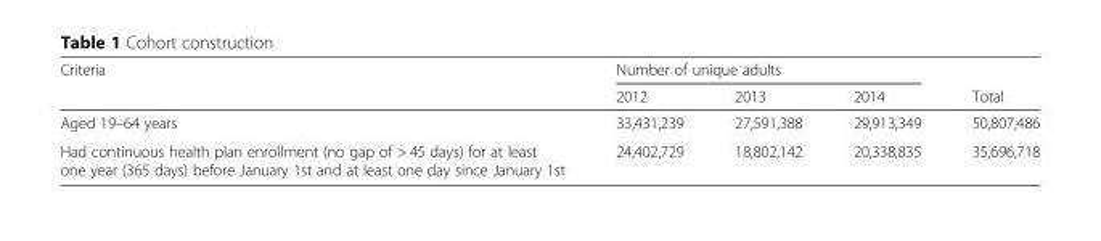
<table><thead><tr><td rowspan="2">Criteria</td><td colspan="3">Number of unique adults</td><td rowspan="2">Total</td></tr><tr><td>2012</td><td>2013</td><td>2014</td></tr></thead><tbody><tr><td>Aged 19–64 years</td><td>33,431,239</td><td>27,591,388</td><td>29,913,349</td><td>50,807,486</td></tr><tr><td>Had continuous health plan enrollment (no gap of &gt; 45 days) for at least one year (365 days) before January 1st and at least one day since January 1st</td><td>24,402,729</td><td>18,802,142</td><td>20,338,835</td><td>35,696,718</td></tr></tbody></table>